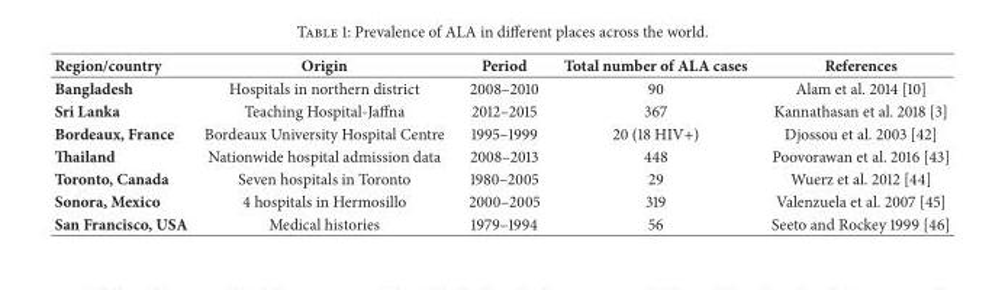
<table><thead><tr><td>Region/country</td><td>Origin</td><td>Period</td><td>Total number of ALA cases</td><td>References</td></tr></thead><tbody><tr><td>Bangladesh</td><td>Hospitals in northern district</td><td>2008–2010</td><td>90</td><td>Alam et al. 2014 [10]</td></tr><tr><td>Sri Lanka</td><td>Teaching Hospital-Jaffna</td><td>2012–2015</td><td>367</td><td>Kannathasan et al. 2018 [3]</td></tr><tr><td>Bordeaux, France</td><td>Bordeaux University Hospital Centre</td><td>1995–1999</td><td>20 (18 HIV+)</td><td>Djossou et al. 2003 [42]</td></tr><tr><td>Thailand</td><td>Nationwide hospital admission data</td><td>2008–2013</td><td>448</td><td>Poovorawan et al. 2016 [43]</td></tr><tr><td>Toronto, Canada</td><td>Seven hospitals in Toronto</td><td>1980–2005</td><td>29</td><td>Wuerz et al. 2012 [44]</td></tr><tr><td>Sonora, Mexico</td><td>4 hospitals in Hermosillo</td><td>2000–2005</td><td>319</td><td>Valenzuela et al. 2007 [45]</td></tr><tr><td>San Francisco, USA</td><td>Medical histories</td><td>1979–1994</td><td>56</td><td>Seeto and Rockey 1999 [46]</td></tr></tbody></table>